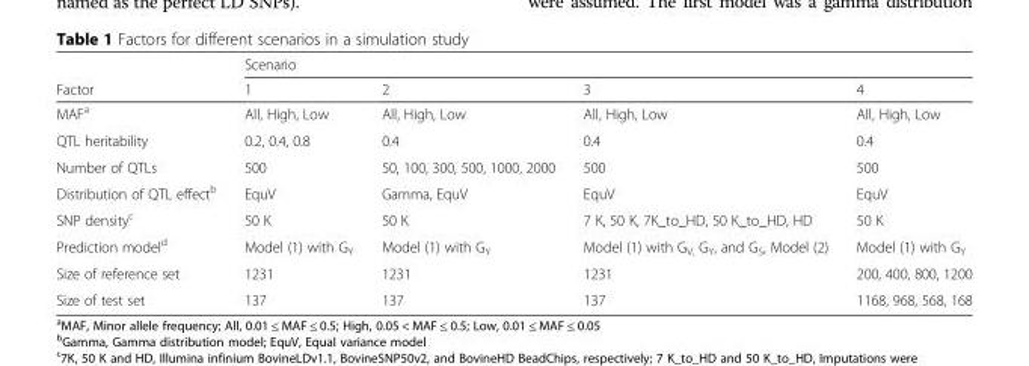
<table><thead><tr><td rowspan="2">Factor</td><td colspan="4">Scenario</td></tr><tr><td>1</td><td>2</td><td>3</td><td>4</td></tr></thead><tbody><tr><td>MAF<sup>a</sup></td><td>All, High, Low</td><td>All, High, Low</td><td>All, High, Low</td><td>All, High, Low</td></tr><tr><td>QTL heritability</td><td>0.2, 0.4, 0.8</td><td>0.4</td><td>0.4</td><td>0.4</td></tr><tr><td>Number of QTLs</td><td>500</td><td>50, 100, 300, 500, 1000, 2000</td><td>500</td><td>500</td></tr><tr><td>Distribution of QTL effect<sup>b</sup></td><td>EquV</td><td>Gamma, EquV</td><td>EquV</td><td>EquV</td></tr><tr><td>SNP density<sup>c</sup></td><td>50 K</td><td>50 K</td><td>7 K, 50 K, 7K_to_HD, 50 K_to_HD, HD</td><td>50 K</td></tr><tr><td>Prediction model<sup>d</sup></td><td>Model (1) with G<sub>Y</sub></td><td>Model (1) with G<sub>Y</sub></td><td>Model (1) with G<sub>V,</sub> G<sub>Y</sub>, and G<sub>S</sub>, Model (2)</td><td>Model (1) with G<sub>Y</sub></td></tr><tr><td>Size of reference set</td><td>1231</td><td>1231</td><td>1231</td><td>200, 400, 800, 1200</td></tr><tr><td>Size of test set</td><td>137</td><td>137</td><td>137</td><td>1168, 968, 568, 168</td></tr></tbody></table>